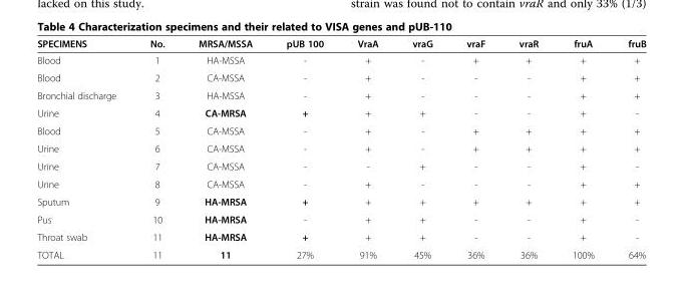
<table><thead><tr><td>SPECIMENS</td><td>No.</td><td>MRSA/MSSA</td><td>pUB 100</td><td>VraA</td><td>vraG</td><td>vraF</td><td>vraR</td><td>fruA</td><td>fruB</td></tr></thead><tbody><tr><td>Blood</td><td>1</td><td>HA-MSSA</td><td>-</td><td>+</td><td>-</td><td>+</td><td>+</td><td>+</td><td>+</td></tr><tr><td>Blood</td><td>2</td><td>CA-MSSA</td><td>-</td><td>+</td><td>-</td><td>-</td><td>-</td><td>+</td><td>+</td></tr><tr><td>Bronchial discharge</td><td>3</td><td>HA-MSSA</td><td>-</td><td>+</td><td>-</td><td>-</td><td>-</td><td>+</td><td>+</td></tr><tr><td>Urine</td><td>4</td><td>CA-MRSA</td><td>+</td><td>+</td><td>+</td><td>-</td><td>-</td><td>+</td><td>-</td></tr><tr><td>Blood</td><td>5</td><td>CA-MSSA</td><td>-</td><td>+</td><td>-</td><td>+</td><td>+</td><td>+</td><td>+</td></tr><tr><td>Urine</td><td>6</td><td>CA-MSSA</td><td>-</td><td>+</td><td>-</td><td>+</td><td>+</td><td>+</td><td>+</td></tr><tr><td>Urine</td><td>7</td><td>CA-MSSA</td><td>-</td><td>-</td><td>+</td><td>-</td><td>-</td><td>+</td><td>-</td></tr><tr><td>Urine</td><td>8</td><td>CA-MSSA</td><td>-</td><td>+</td><td>-</td><td>-</td><td>-</td><td>+</td><td>+</td></tr><tr><td>Sputum</td><td>9</td><td>HA-MRSA</td><td>+</td><td>+</td><td>+</td><td>+</td><td>+</td><td>+</td><td>+</td></tr><tr><td>Pus</td><td>10</td><td>HA-MRSA</td><td>-</td><td>+</td><td>+</td><td>-</td><td>-</td><td>+</td><td>-</td></tr><tr><td>Throat swab</td><td>11</td><td>HA-MRSA</td><td>+</td><td>+</td><td>+</td><td>-</td><td>-</td><td>+</td><td>-</td></tr><tr><td>TOTAL</td><td>11</td><td>11</td><td>27%</td><td>91%</td><td>45%</td><td>36%</td><td>36%</td><td>100%</td><td>64%</td></tr></tbody></table>